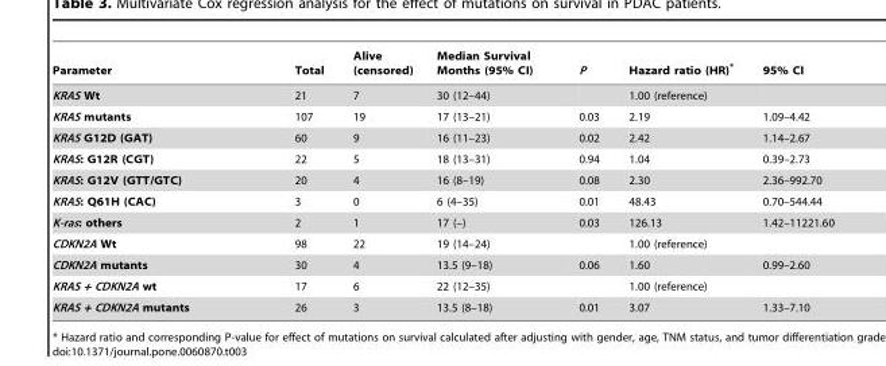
<table><thead><tr><td>Parameter</td><td>Total</td><td>Alive (censored)</td><td>Median Survival Months (95% CI)</td><td>P</td><td>Hazard ratio (HR)*</td><td>95% CI</td></tr></thead><tbody><tr><td>KRAS Wt</td><td>21</td><td>7</td><td>30 (12–44)</td><td></td><td>1.00 (reference)</td><td></td></tr><tr><td>KRAS mutants</td><td>107</td><td>19</td><td>17 (13–21)</td><td>0.03</td><td>2.19</td><td>1.09–4.42</td></tr><tr><td>KRAS G12D (GAT)</td><td>60</td><td>9</td><td>16 (11–23)</td><td>0.02</td><td>2.42</td><td>1.14–2.67</td></tr><tr><td>KRAS: G12R (CGT)</td><td>22</td><td>5</td><td>18 (13–31)</td><td>0.94</td><td>1.04</td><td>0.39–2.73</td></tr><tr><td>KRAS: G12V (GTT/GTC)</td><td>20</td><td>4</td><td>16 (8–19)</td><td>0.08</td><td>2.30</td><td>2.36–992.70</td></tr><tr><td>KRAS: Q61H (CAC)</td><td>3</td><td>0</td><td>6 (4–35)</td><td>0.01</td><td>48.43</td><td>0.70–544.44</td></tr><tr><td>K-ras: others</td><td>2</td><td>1</td><td>17 (–)</td><td>0.03</td><td>126.13</td><td>1.42–11221.60</td></tr><tr><td>CDKN2A Wt</td><td>98</td><td>22</td><td>19 (14–24)</td><td></td><td>1.00 (reference)</td><td></td></tr><tr><td>CDKN2A mutants</td><td>30</td><td>4</td><td>13.5 (9–18)</td><td>0.06</td><td>1.60</td><td>0.99–2.60</td></tr><tr><td>KRAS + CDKN2A wt</td><td>17</td><td>6</td><td>22 (12–35)</td><td></td><td>1.00 (reference)</td><td></td></tr><tr><td>KRAS + CDKN2A mutants</td><td>26</td><td>3</td><td>13.5 (8–18)</td><td>0.01</td><td>3.07</td><td>1.33–7.10</td></tr></tbody></table>